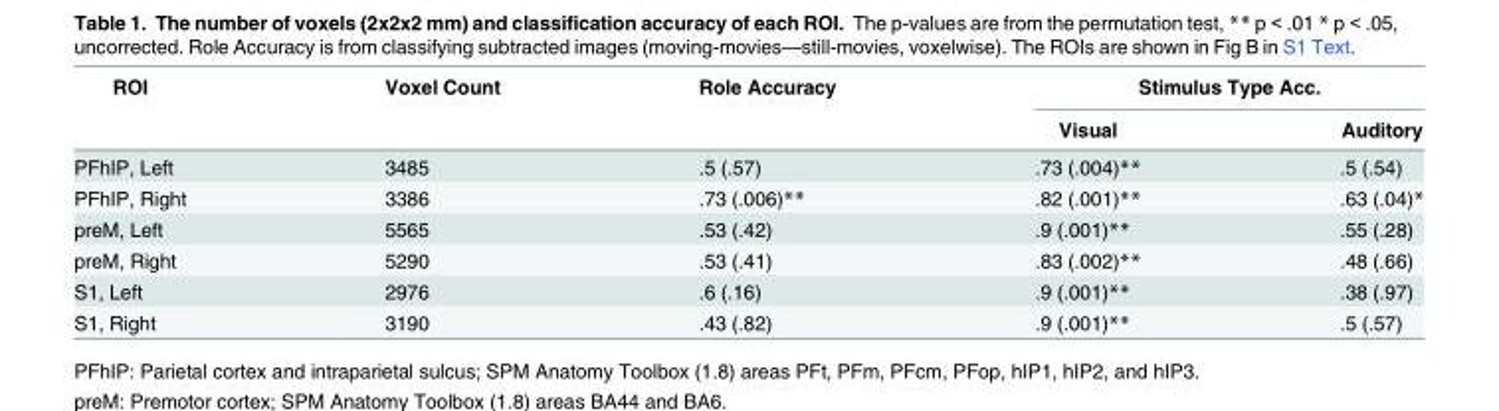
<table><thead><tr><td rowspan="2">ROI</td><td rowspan="2">Voxel Count</td><td rowspan="2">Role Accuracy</td><td colspan="2">Stimulus Type Acc.</td></tr><tr><td>Visual</td><td>Auditory</td></tr></thead><tbody><tr><td>PFhIP, Left</td><td>3485</td><td>.5 (.57)</td><td>.73 (.004)**</td><td>.5 (.54)</td></tr><tr><td>PFhIP, Right</td><td>3386</td><td>.73 (.006)**</td><td>.82 (.001)**</td><td>.63 (.04)*</td></tr><tr><td>preM, Left</td><td>5565</td><td>.53 (.42)</td><td>.9 (.001)**</td><td>.55 (.28)</td></tr><tr><td>preM, Right</td><td>5290</td><td>.53 (.41)</td><td>.83 (.002)**</td><td>.48 (.66)</td></tr><tr><td>S1, Left</td><td>2976</td><td>.6 (.16)</td><td>.9 (.001)**</td><td>.38 (.97)</td></tr><tr><td>S1, Right</td><td>3190</td><td>.43 (.82)</td><td>.9 (.001)**</td><td>.5 (.57)</td></tr></tbody></table>